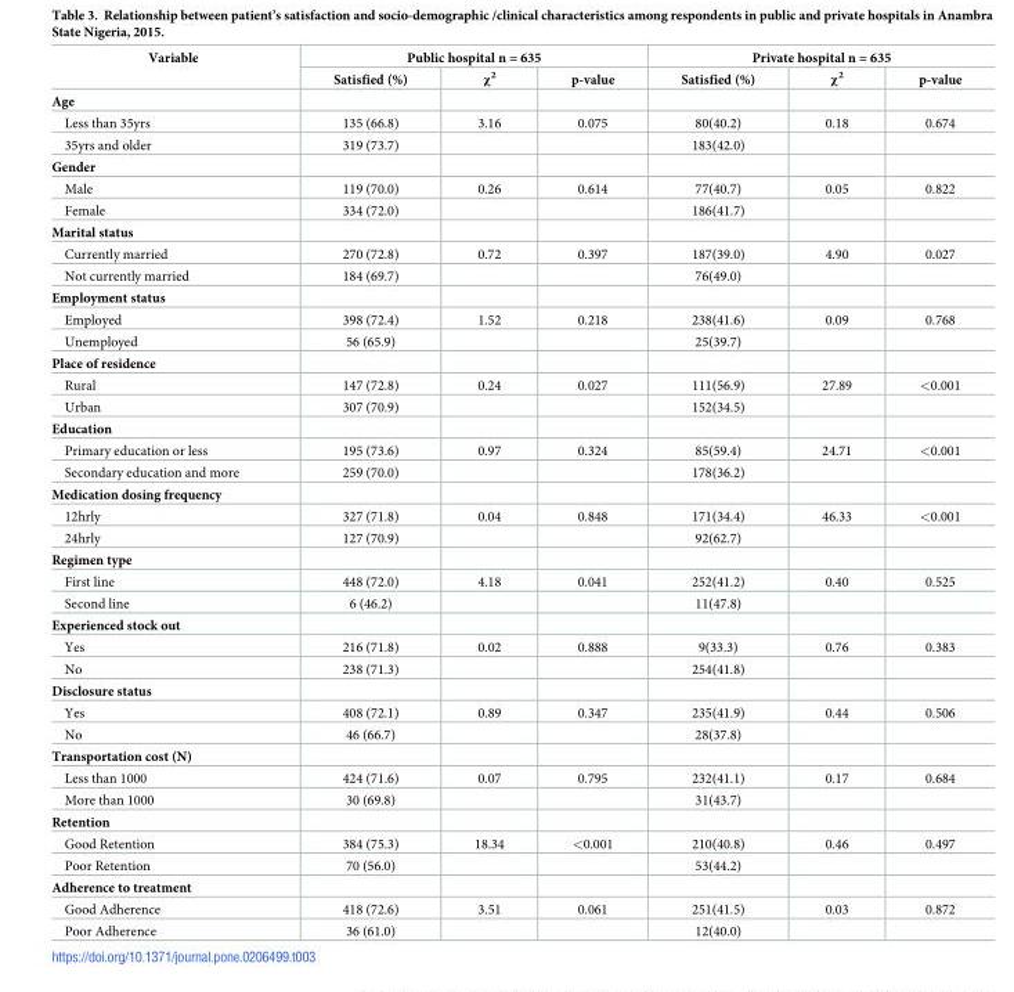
<table><thead><tr><td rowspan="2">Variable</td><td colspan="3">Public hospital n = 635</td><td colspan="3">Private hospital n = 635</td></tr><tr><td>Satisfied (%)</td><td>χ<sup>2</sup></td><td>p-value</td><td>Satisfied (%)</td><td>χ<sup>2</sup></td><td>p-value</td></tr></thead><tbody><tr><td colspan="7">Age</td></tr><tr><td>Less than 35yrs</td><td>135 (66.8)</td><td>3.16</td><td>0.075</td><td>80(40.2)</td><td>0.18</td><td>0.674</td></tr><tr><td>35yrs and older</td><td>319 (73.7)</td><td></td><td></td><td>183(42.0)</td><td></td><td></td></tr><tr><td colspan="7">Gender</td></tr><tr><td>Male</td><td>119 (70.0)</td><td>0.26</td><td>0.614</td><td>77(40.7)</td><td>0.05</td><td>0.822</td></tr><tr><td>Female</td><td>334 (72.0)</td><td></td><td></td><td>186(41.7)</td><td></td><td></td></tr><tr><td colspan="7">Marital status</td></tr><tr><td>Currently married</td><td>270 (72.8)</td><td>0.72</td><td>0.397</td><td>187(39.0)</td><td>4.90</td><td>0.027</td></tr><tr><td>Not currently married</td><td>184 (69.7)</td><td></td><td></td><td>76(49.0)</td><td></td><td></td></tr><tr><td colspan="7">Employment status</td></tr><tr><td>Employed</td><td>398 (72.4)</td><td>1.52</td><td>0.218</td><td>238(41.6)</td><td>0.09</td><td>0.768</td></tr><tr><td>Unemployed</td><td>56 (65.9)</td><td></td><td></td><td>25(39.7)</td><td></td><td></td></tr><tr><td colspan="7">Place of residence</td></tr><tr><td>Rural</td><td>147 (72.8)</td><td>0.24</td><td>0.027</td><td>111(56.9)</td><td>27.89</td><td>&lt;0.001</td></tr><tr><td>Urban</td><td>307 (70.9)</td><td></td><td></td><td>152(34.5)</td><td></td><td></td></tr><tr><td colspan="7">Education</td></tr><tr><td>Primary education or less</td><td>195 (73.6)</td><td>0.97</td><td>0.324</td><td>85(59.4)</td><td>24.71</td><td>&lt;0.001</td></tr><tr><td>Secondary education and more</td><td>259 (70.0)</td><td></td><td></td><td>178(36.2)</td><td></td><td></td></tr><tr><td colspan="7">Medication dosing frequency</td></tr><tr><td>12hrly</td><td>327 (71.8)</td><td>0.04</td><td>0.848</td><td>171(34.4)</td><td>46.33</td><td>&lt;0.001</td></tr><tr><td>24hrly</td><td>127 (70.9)</td><td></td><td></td><td>92(62.7)</td><td></td><td></td></tr><tr><td colspan="7">Regimen type</td></tr><tr><td>First line</td><td>448 (72.0)</td><td>4.18</td><td>0.041</td><td>252(41.2)</td><td>0.40</td><td>0.525</td></tr><tr><td>Second line</td><td>6 (46.2)</td><td></td><td></td><td>11(47.8)</td><td></td><td></td></tr><tr><td colspan="7">Experienced stock out</td></tr><tr><td>Yes</td><td>216 (71.8)</td><td>0.02</td><td>0.888</td><td>9(33.3)</td><td>0.76</td><td>0.383</td></tr><tr><td>No</td><td>238 (71.3)</td><td></td><td></td><td>254(41.8)</td><td></td><td></td></tr><tr><td colspan="7">Disclosure status</td></tr><tr><td>Yes</td><td>408 (72.1)</td><td>0.89</td><td>0.347</td><td>235(41.9)</td><td>0.44</td><td>0.506</td></tr><tr><td>No</td><td>46 (66.7)</td><td></td><td></td><td>28(37.8)</td><td></td><td></td></tr><tr><td colspan="7">Transportation cost (N)</td></tr><tr><td>Less than 1000</td><td>424 (71.6)</td><td>0.07</td><td>0.795</td><td>232(41.1)</td><td>0.17</td><td>0.684</td></tr><tr><td>More than 1000</td><td>30 (69.8)</td><td></td><td></td><td>31(43.7)</td><td></td><td></td></tr><tr><td colspan="7">Retention</td></tr><tr><td>Good Retention</td><td>384 (75.3)</td><td>18.34</td><td>&lt;0.001</td><td>210(40.8)</td><td>0.46</td><td>0.497</td></tr><tr><td>Poor Retention</td><td>70 (56.0)</td><td></td><td></td><td>53(44.2)</td><td></td><td></td></tr><tr><td colspan="7">Adherence to treatment</td></tr><tr><td>Good Adherence</td><td>418 (72.6)</td><td>3.51</td><td>0.061</td><td>251(41.5)</td><td>0.03</td><td>0.872</td></tr><tr><td>Poor Adherence</td><td>36 (61.0)</td><td></td><td></td><td>12(40.0)</td><td></td><td></td></tr></tbody></table>